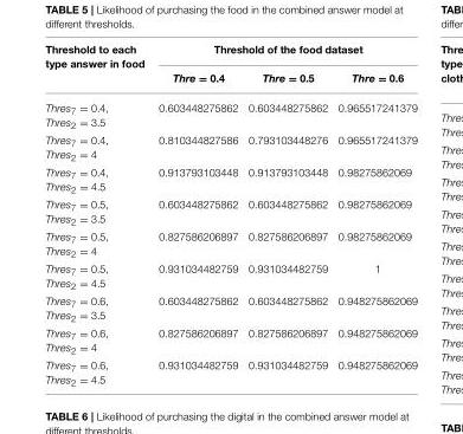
<table><thead><tr><td rowspan="2">Threshold to each type answer in food</td><td colspan="3">Threshold of the food dataset</td></tr><tr><td>Thre = 0.4</td><td>Thre = 0.5</td><td>Thre = 0.6</td></tr></thead><tbody><tr><td>Thres<sub>7</sub> = 0.4, Thres<sub>2</sub> = 3.5</td><td>0.603448275862</td><td>0.603448275862</td><td>0.965517241379</td></tr><tr><td>Thres<sub>7</sub> = 0.4, Thres<sub>2</sub> = 4</td><td>0.810344827586</td><td>0.793103448276</td><td>0.965517241379</td></tr><tr><td>Thres<sub>7</sub> = 0.4, Thres<sub>2</sub> = 4.5</td><td>0.913793103448</td><td>0.913793103448</td><td>0.98275862069</td></tr><tr><td>Thres<sub>7</sub> = 0.5, Thres<sub>2</sub> = 3.5</td><td>0.603448275862</td><td>0.603448275862</td><td>0.98275862069</td></tr><tr><td>Thres<sub>7</sub> = 0.5, Thres<sub>2</sub> = 4</td><td>0.827586206897</td><td>0.827586206897</td><td>0.98275862069</td></tr><tr><td>Thres<sub>7</sub> = 0.5, Thres<sub>2</sub> = 4.5</td><td>0.931034482759</td><td>0.931034482759</td><td>1</td></tr><tr><td>Thres<sub>7</sub> = 0.6, Thres<sub>2</sub> = 3.5</td><td>0.603448275862</td><td>0.603448275862</td><td>0.948275862069</td></tr><tr><td>Thres<sub>7</sub> = 0.6, Thres<sub>2</sub> = 4</td><td>0.827586206897</td><td>0.827586206897</td><td>0.948275862069</td></tr><tr><td>Thres<sub>7</sub> = 0.6, Thres<sub>2</sub> = 4.5</td><td>0.931034482759</td><td>0.931034482759</td><td>0.948275862069</td></tr></tbody></table>